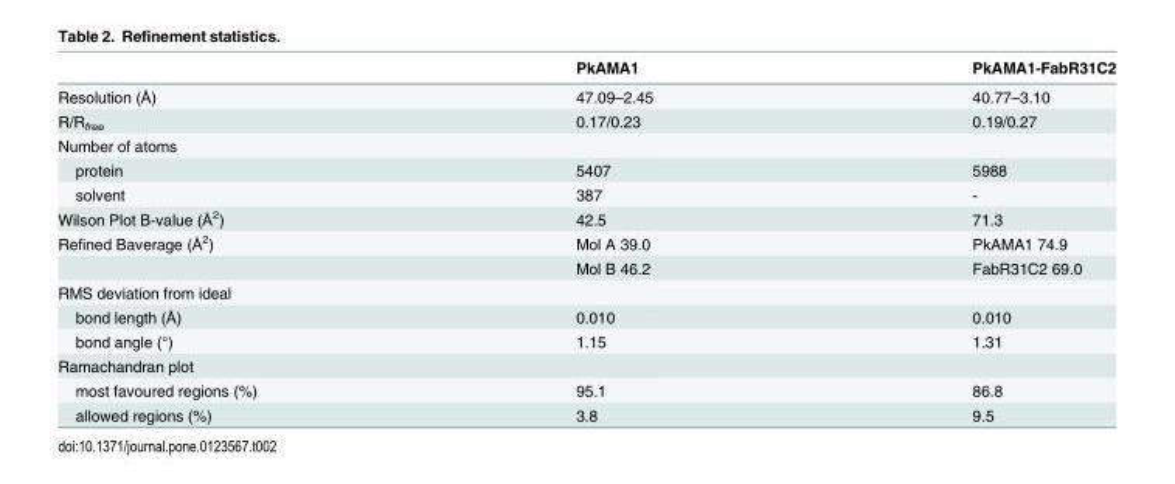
<table><thead><tr><td></td><td>PkAMA1</td><td>PkAMA1-FabR31C2</td></tr></thead><tbody><tr><td>Resolution (Å)</td><td>47.09–2.45</td><td>40.77–3.10</td></tr><tr><td>R/R<sub>free</sub></td><td>0.17/0.23</td><td>0.19/0.27</td></tr><tr><td colspan="3">Number of atoms</td></tr><tr><td>protein</td><td>5407</td><td>5988</td></tr><tr><td>solvent</td><td>387</td><td>-</td></tr><tr><td>Wilson Plot B-value (Å<sup>2</sup>)</td><td>42.5</td><td>71.3</td></tr><tr><td rowspan="2">Refined Baverage (Å<sup>2</sup>)</td><td>Mol A 39.0</td><td>PkAMA1 74.9</td></tr><tr><td>Mol B 46.2</td><td>FabR31C2 69.0</td></tr><tr><td colspan="3">RMS deviation from ideal</td></tr><tr><td>bond length (Å)</td><td>0.010</td><td>0.010</td></tr><tr><td>bond angle (°)</td><td>1.15</td><td>1.31</td></tr><tr><td colspan="3">Ramachandran plot</td></tr><tr><td>most favoured regions (%)</td><td>95.1</td><td>86.8</td></tr><tr><td>allowed regions (%)</td><td>3.8</td><td>9.5</td></tr></tbody></table>